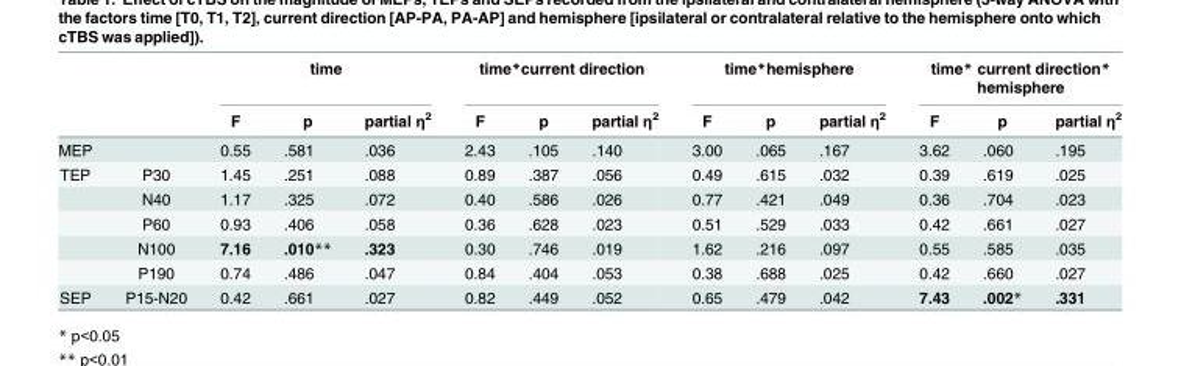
<table><thead><tr><td rowspan="2"></td><td rowspan="2"></td><td colspan="3">time</td><td colspan="3">time*current direction</td><td colspan="3">time*hemisphere</td><td colspan="3">time* current direction* hemisphere</td></tr><tr><td>F</td><td>p</td><td>partial η<sup>2</sup></td><td>F</td><td>p</td><td>partial η<sup>2</sup></td><td>F</td><td>p</td><td>partial η<sup>2</sup></td><td>F</td><td>p</td><td>partial η<sup>2</sup></td></tr></thead><tbody><tr><td>MEP</td><td></td><td>0.55</td><td>.581</td><td>.036</td><td>2.43</td><td>.105</td><td>.140</td><td>3.00</td><td>.065</td><td>.167</td><td>3.62</td><td>.060</td><td>.195</td></tr><tr><td rowspan="5">TEP</td><td>P30</td><td>1.45</td><td>.251</td><td>.088</td><td>0.89</td><td>.387</td><td>.056</td><td>0.49</td><td>.615</td><td>.032</td><td>0.39</td><td>.619</td><td>.025</td></tr><tr><td>N40</td><td>1.17</td><td>.325</td><td>.072</td><td>0.40</td><td>.586</td><td>.026</td><td>0.77</td><td>.421</td><td>.049</td><td>0.36</td><td>.704</td><td>.023</td></tr><tr><td>P60</td><td>0.93</td><td>.406</td><td>.058</td><td>0.36</td><td>.628</td><td>.023</td><td>0.51</td><td>.529</td><td>.033</td><td>0.42</td><td>.661</td><td>.027</td></tr><tr><td>N100</td><td>7.16</td><td>.010**</td><td>.323</td><td>0.30</td><td>.746</td><td>.019</td><td>1.62</td><td>.216</td><td>.097</td><td>0.55</td><td>.585</td><td>.035</td></tr><tr><td>P190</td><td>0.74</td><td>.486</td><td>.047</td><td>0.84</td><td>.404</td><td>.053</td><td>0.38</td><td>.688</td><td>.025</td><td>0.42</td><td>.660</td><td>.027</td></tr><tr><td>SEP</td><td>P15-N20</td><td>0.42</td><td>.661</td><td>.027</td><td>0.82</td><td>.449</td><td>.052</td><td>0.65</td><td>.479</td><td>.042</td><td>7.43</td><td>.002*</td><td>.331</td></tr></tbody></table>